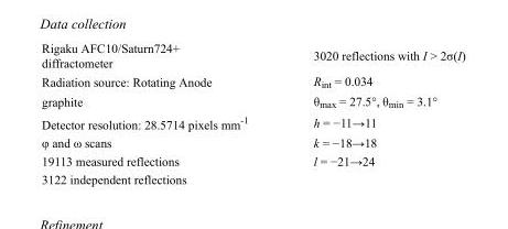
<table><tbody><tr><td>Rigaku AFC10/Saturn724+ diffractometer</td><td>3020 reflections with I &gt; 2σ(I)</td></tr><tr><td>Radiation source: Rotating Anode</td><td>R<sub>int</sub> = 0.034</td></tr><tr><td>graphite</td><td>θ<sub>max</sub> = 27.5°, θ<sub>min</sub> = 3.1°</td></tr><tr><td>Detector resolution: 28.5714 pixels mm<sup>-1</sup></td><td>h = −11→11</td></tr><tr><td>φ and ω scans</td><td>k = −18→18</td></tr><tr><td>19113 measured reflections</td><td>l = −21→24</td></tr><tr><td>3122 independent reflections</td><td></td></tr></tbody></table>